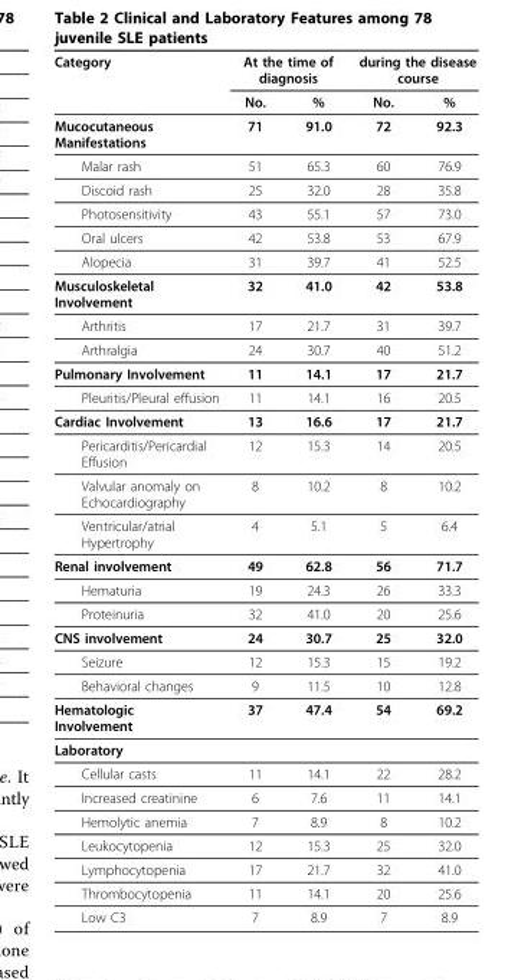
<table><thead><tr><td rowspan="2">Category</td><td colspan="2">At the time of diagnosis</td><td colspan="2">during the disease course</td></tr><tr><td>No.</td><td>%</td><td>No.</td><td>%</td></tr></thead><tbody><tr><td>Mucocutaneous Manifestations</td><td>71</td><td>91.0</td><td>72</td><td>92.3</td></tr><tr><td>Malar rash</td><td>51</td><td>65.3</td><td>60</td><td>76.9</td></tr><tr><td>Discoid rash</td><td>25</td><td>32.0</td><td>28</td><td>35.8</td></tr><tr><td>Photosensitivity</td><td>43</td><td>55.1</td><td>57</td><td>73.0</td></tr><tr><td>Oral ulcers</td><td>42</td><td>53.8</td><td>53</td><td>67.9</td></tr><tr><td>Alopecia</td><td>31</td><td>39.7</td><td>41</td><td>52.5</td></tr><tr><td>Musculoskeletal Involvement</td><td>32</td><td>41.0</td><td>42</td><td>53.8</td></tr><tr><td>Arthritis</td><td>17</td><td>21.7</td><td>31</td><td>39.7</td></tr><tr><td>Arthralgia</td><td>24</td><td>30.7</td><td>40</td><td>51.2</td></tr><tr><td>Pulmonary Involvement</td><td>11</td><td>14.1</td><td>17</td><td>21.7</td></tr><tr><td>Pleuritis/Pleural effusion</td><td>11</td><td>14.1</td><td>16</td><td>20.5</td></tr><tr><td>Cardiac Involvement</td><td>13</td><td>16.6</td><td>17</td><td>21.7</td></tr><tr><td>Pericarditis/Pericardial Effusion</td><td>12</td><td>15.3</td><td>14</td><td>20.5</td></tr><tr><td>Valvular anomaly on Echocardiography</td><td>8</td><td>10.2</td><td>8</td><td>10.2</td></tr><tr><td>Ventricular/atrial Hypertrophy</td><td>4</td><td>5.1</td><td>5</td><td>6.4</td></tr><tr><td>Renal involvement</td><td>49</td><td>62.8</td><td>56</td><td>71.7</td></tr><tr><td>Hematuria</td><td>19</td><td>24.3</td><td>26</td><td>33.3</td></tr><tr><td>Proteinuria</td><td>32</td><td>41.0</td><td>20</td><td>25.6</td></tr><tr><td>CNS involvement</td><td>24</td><td>30.7</td><td>25</td><td>32.0</td></tr><tr><td>Seizure</td><td>12</td><td>15.3</td><td>15</td><td>19.2</td></tr><tr><td>Behavioral changes</td><td>9</td><td>11.5</td><td>10</td><td>12.8</td></tr><tr><td>Hematologic Involvement</td><td>37</td><td>47.4</td><td>54</td><td>69.2</td></tr><tr><td colspan="5">Laboratory</td></tr><tr><td>Cellular casts</td><td>11</td><td>14.1</td><td>22</td><td>28.2</td></tr><tr><td>Increased creatinine</td><td>6</td><td>7.6</td><td>11</td><td>14.1</td></tr><tr><td>Hemolytic anemia</td><td>7</td><td>8.9</td><td>8</td><td>10.2</td></tr><tr><td>Leukocytopenia</td><td>12</td><td>15.3</td><td>25</td><td>32.0</td></tr><tr><td>Lymphocytopenia</td><td>17</td><td>21.7</td><td>32</td><td>41.0</td></tr><tr><td>Thrombocytopenia</td><td>11</td><td>14.1</td><td>20</td><td>25.6</td></tr><tr><td>Low C3</td><td>7</td><td>8.9</td><td>7</td><td>8.9</td></tr></tbody></table>